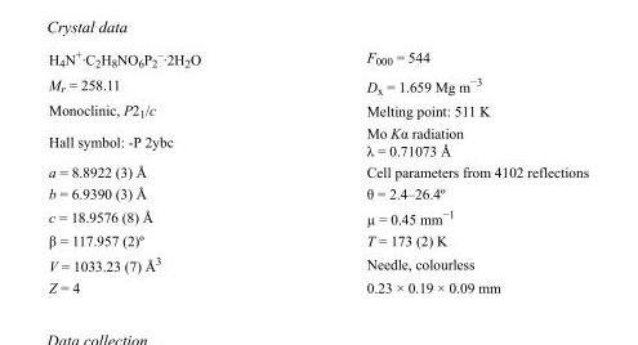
<table><tbody><tr><td>H<sub>4</sub>N<sup>+</sup>·C<sub>2</sub>H<sub>8</sub>NO<sub>6</sub>P<sub>2</sub> <sup>–</sup>·2H<sub>2</sub>O</td><td>F<sub>000</sub> = 544</td></tr><tr><td>M<sub>r</sub> = 258.11</td><td>D<sub>x</sub> = 1.659 Mg m<sup>−3</sup></td></tr><tr><td>Monoclinic, P2<sub>1</sub>/c</td><td>Melting point: 511 K</td></tr><tr><td>Hall symbol: -P 2ybc</td><td>Mo Kα radiation λ = 0.71073 Å</td></tr><tr><td>a = 8.8922 (3) Å</td><td>Cell parameters from 4102 reflections</td></tr><tr><td>b = 6.9390 (3) Å</td><td>θ = 2.4–26.4º</td></tr><tr><td>c = 18.9576 (8) Å</td><td>µ = 0.45 mm<sup>−1</sup></td></tr><tr><td>β = 117.957 (2)º</td><td>T = 173 (2) K</td></tr><tr><td>V = 1033.23 (7) Å<sup>3</sup></td><td>Needle, colourless</td></tr><tr><td>Z = 4</td><td>0.23 × 0.19 × 0.09 mm</td></tr></tbody></table>